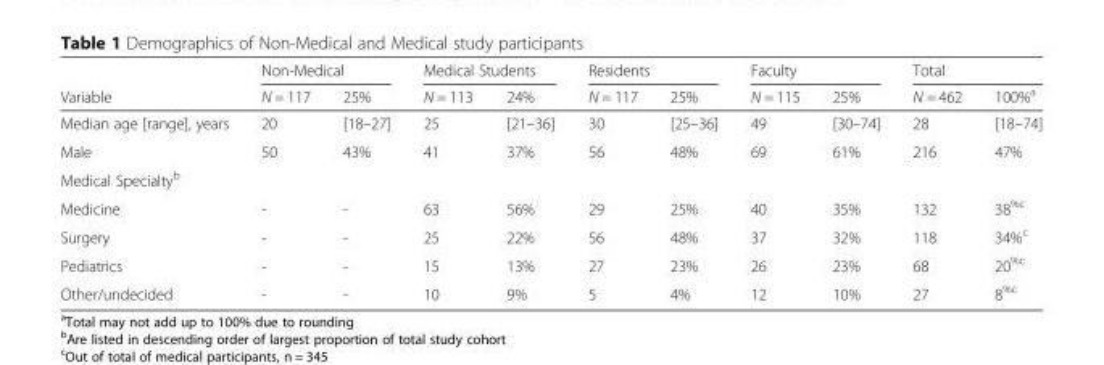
<table><thead><tr><td rowspan="2">Variable</td><td colspan="2">Non-Medical</td><td colspan="2">Medical Students</td><td colspan="2">Residents</td><td colspan="2">Faculty</td><td colspan="2">Total</td></tr><tr><td>N = 117</td><td>25%</td><td>N = 113</td><td>24%</td><td>N = 117</td><td>25%</td><td>N = 115</td><td>25%</td><td>N = 462</td><td>100%<sup>a</sup></td></tr></thead><tbody><tr><td>Median age [range], years</td><td>20</td><td>[18–27]</td><td>25</td><td>[21–36]</td><td>30</td><td>[25–36]</td><td>49</td><td>[30–74]</td><td>28</td><td>[18–74]</td></tr><tr><td>Male</td><td>50</td><td>43%</td><td>41</td><td>37%</td><td>56</td><td>48%</td><td>69</td><td>61%</td><td>216</td><td>47%</td></tr><tr><td colspan="11">Medical Specialty<sup>b</sup></td></tr><tr><td>Medicine</td><td>-</td><td>-</td><td>63</td><td>56%</td><td>29</td><td>25%</td><td>40</td><td>35%</td><td>132</td><td>38<sup>%c</sup></td></tr><tr><td>Surgery</td><td>-</td><td>-</td><td>25</td><td>22%</td><td>56</td><td>48%</td><td>37</td><td>32%</td><td>118</td><td>34%<sup>c</sup></td></tr><tr><td>Pediatrics</td><td>-</td><td>-</td><td>15</td><td>13%</td><td>27</td><td>23%</td><td>26</td><td>23%</td><td>68</td><td>20<sup>%c</sup></td></tr><tr><td>Other/undecided</td><td>-</td><td>-</td><td>10</td><td>9%</td><td>5</td><td>4%</td><td>12</td><td>10%</td><td>27</td><td>8<sup>%c</sup></td></tr></tbody></table>